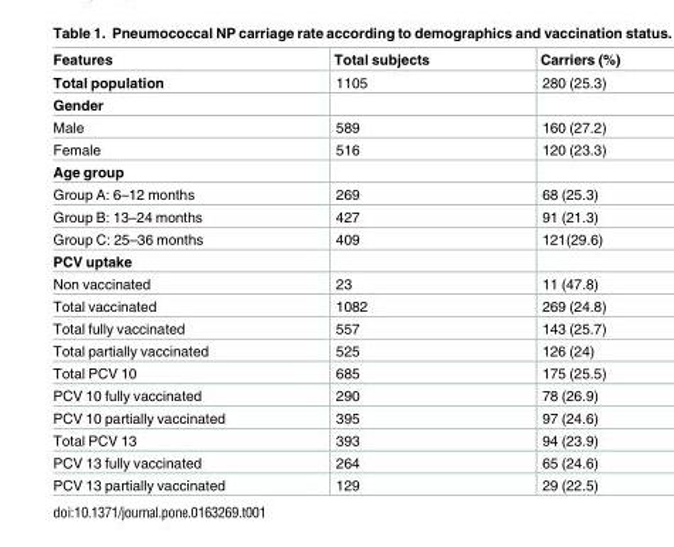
<table><thead><tr><td>Features</td><td>Total subjects</td><td>Carriers (%)</td></tr></thead><tbody><tr><td>Total population</td><td>1105</td><td>280 (25.3)</td></tr><tr><td colspan="3">Gender</td></tr><tr><td>Male</td><td>589</td><td>160 (27.2)</td></tr><tr><td>Female</td><td>516</td><td>120 (23.3)</td></tr><tr><td colspan="3">Age group</td></tr><tr><td>Group A: 6–12 months</td><td>269</td><td>68 (25.3)</td></tr><tr><td>Group B: 13–24 months</td><td>427</td><td>91 (21.3)</td></tr><tr><td>Group C: 25–36 months</td><td>409</td><td>121(29.6)</td></tr><tr><td colspan="3">PCV uptake</td></tr><tr><td>Non vaccinated</td><td>23</td><td>11 (47.8)</td></tr><tr><td>Total vaccinated</td><td>1082</td><td>269 (24.8)</td></tr><tr><td>Total fully vaccinated</td><td>557</td><td>143 (25.7)</td></tr><tr><td>Total partially vaccinated</td><td>525</td><td>126 (24)</td></tr><tr><td>Total PCV 10</td><td>685</td><td>175 (25.5)</td></tr><tr><td>PCV 10 fully vaccinated</td><td>290</td><td>78 (26.9)</td></tr><tr><td>PCV 10 partially vaccinated</td><td>395</td><td>97 (24.6)</td></tr><tr><td>Total PCV 13</td><td>393</td><td>94 (23.9)</td></tr><tr><td>PCV 13 fully vaccinated</td><td>264</td><td>65 (24.6)</td></tr><tr><td>PCV 13 partially vaccinated</td><td>129</td><td>29 (22.5)</td></tr></tbody></table>